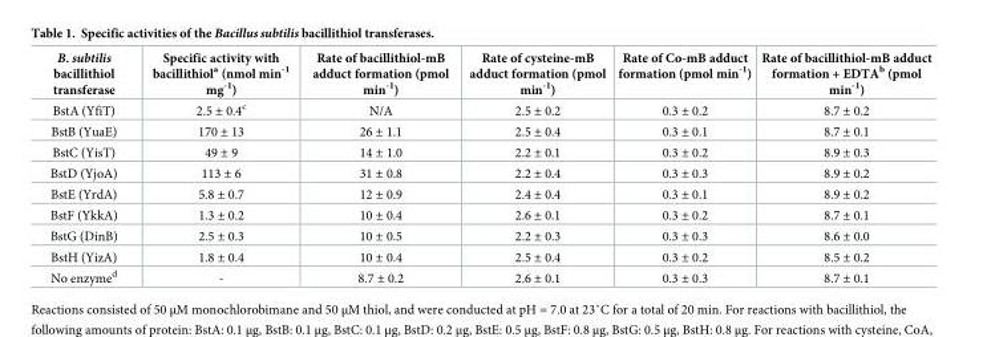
<table><thead><tr><td>B. subtilis bacillithiol transferase</td><td>Specific activity with bacillithiol<sup>a</sup> (nmol min<sup>-1</sup> mg<sup>-1</sup>)</td><td>Rate of bacillithiol-mB adduct formation (pmol min<sup>-1</sup>)</td><td>Rate of cysteine-mB adduct formation (pmol min<sup>-1</sup>)</td><td>Rate of Co-mB adduct formation (pmol min<sup>-1</sup>)</td><td>Rate of bacillithiol-mB adduct formation + EDTA<sup>b</sup> (pmol min<sup>-1</sup>)</td></tr></thead><tbody><tr><td>BstA (YfiT)</td><td>2.5 ± 0.4<sup>c</sup></td><td>N/A</td><td>2.5 ± 0.2</td><td>0.3 ± 0.2</td><td>8.7 ± 0.2</td></tr><tr><td>BstB (YuaE)</td><td>170 ± 13</td><td>26 ± 1.1</td><td>2.5 ± 0.4</td><td>0.3 ± 0.1</td><td>8.7 ± 0.1</td></tr><tr><td>BstC (YisT)</td><td>49 ± 9</td><td>14 ± 1.0</td><td>2.2 ± 0.1</td><td>0.3 ± 0.2</td><td>8.9 ± 0.3</td></tr><tr><td>BstD (YjoA)</td><td>113 ± 6</td><td>31 ± 0.8</td><td>2.2 ± 0.4</td><td>0.3 ± 0.3</td><td>8.9 ± 0.2</td></tr><tr><td>BstE (YrdA)</td><td>5.8 ± 0.7</td><td>12 ± 0.9</td><td>2.4 ± 0.4</td><td>0.3 ± 0.1</td><td>8.9 ± 0.2</td></tr><tr><td>BstF (YkkA)</td><td>1.3 ± 0.2</td><td>10 ± 0.4</td><td>2.6 ± 0.1</td><td>0.3 ± 0.2</td><td>8.7 ± 0.1</td></tr><tr><td>BstG (DinB)</td><td>2.5 ± 0.3</td><td>10 ± 0.5</td><td>2.2 ± 0.3</td><td>0.3 ± 0.3</td><td>8.6 ± 0.0</td></tr><tr><td>BstH (YizA)</td><td>1.8 ± 0.4</td><td>10 ± 0.4</td><td>2.5 ± 0.4</td><td>0.3 ± 0.2</td><td>8.5 ± 0.2</td></tr><tr><td>No enzyme<sup>d</sup></td><td>-</td><td>8.7 ± 0.2</td><td>2.6 ± 0.1</td><td>0.3 ± 0.3</td><td>8.7 ± 0.1</td></tr></tbody></table>